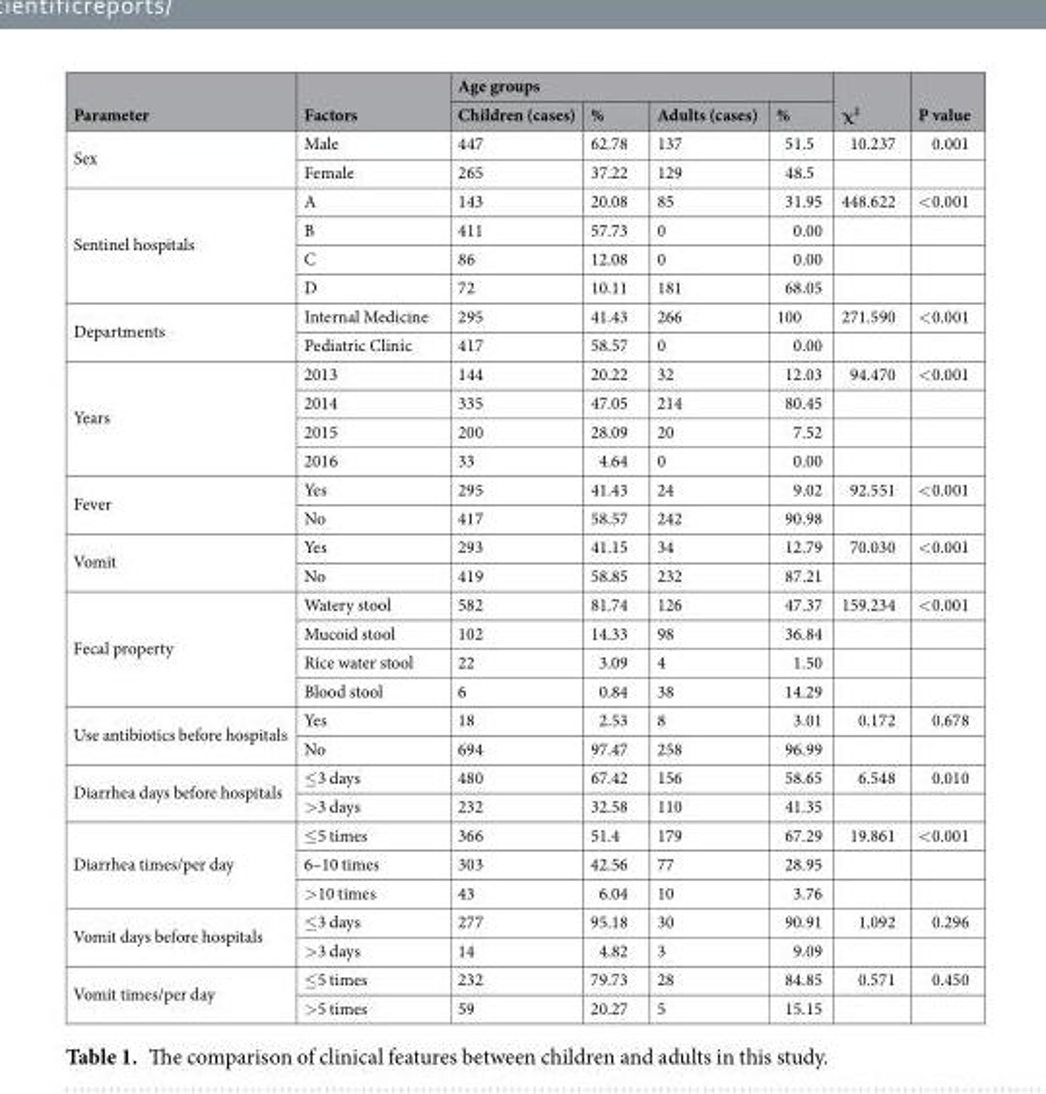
<table><thead><tr><td rowspan="2">Parameter</td><td rowspan="2">Factors</td><td colspan="4">Age groups</td><td rowspan="2">χ<sup>2</sup></td><td rowspan="2">P value</td></tr><tr><td>Children (cases)</td><td>%</td><td>Adults (cases)</td><td>%</td></tr></thead><tbody><tr><td rowspan="2">Sex</td><td>Male</td><td>447</td><td>62.78</td><td>137</td><td>51.5</td><td>10.237</td><td>0.001</td></tr><tr><td>Female</td><td>265</td><td>37.22</td><td>129</td><td>48.5</td><td></td><td></td></tr><tr><td rowspan="4">Sentinel hospitals</td><td>A</td><td>143</td><td>20.08</td><td>85</td><td>31.95</td><td>448.622</td><td>&lt;0.001</td></tr><tr><td>B</td><td>411</td><td>57.73</td><td>0</td><td>0.00</td><td></td><td></td></tr><tr><td>C</td><td>86</td><td>12.08</td><td>0</td><td>0.00</td><td></td><td></td></tr><tr><td>D</td><td>72</td><td>10.11</td><td>181</td><td>68.05</td><td></td><td></td></tr><tr><td rowspan="2">Departments</td><td>Internal Medicine</td><td>295</td><td>41.43</td><td>266</td><td>100</td><td>271.590</td><td>&lt;0.001</td></tr><tr><td>Pediatric Clinic</td><td>417</td><td>58.57</td><td>0</td><td>0.00</td><td></td><td></td></tr><tr><td rowspan="4">Years</td><td>2013</td><td>144</td><td>20.22</td><td>32</td><td>12.03</td><td>94.470</td><td>&lt;0.001</td></tr><tr><td>2014</td><td>335</td><td>47.05</td><td>214</td><td>80.45</td><td></td><td></td></tr><tr><td>2015</td><td>200</td><td>28.09</td><td>20</td><td>7.52</td><td></td><td></td></tr><tr><td>2016</td><td>33</td><td>4.64</td><td>0</td><td>0.00</td><td></td><td></td></tr><tr><td rowspan="2">Fever</td><td>Yes</td><td>295</td><td>41.43</td><td>24</td><td>9.02</td><td>92.551</td><td>&lt;0.001</td></tr><tr><td>No</td><td>417</td><td>58.57</td><td>242</td><td>90.98</td><td></td><td></td></tr><tr><td rowspan="2">Vomit</td><td>Yes</td><td>293</td><td>41.15</td><td>34</td><td>12.79</td><td>70.030</td><td>&lt;0.001</td></tr><tr><td>No</td><td>419</td><td>58.85</td><td>232</td><td>87.21</td><td></td><td></td></tr><tr><td rowspan="4">Fecal property</td><td>Watery stool</td><td>582</td><td>81.74</td><td>126</td><td>47.37</td><td>159.234</td><td>&lt;0.001</td></tr><tr><td>Mucoid stool</td><td>102</td><td>14.33</td><td>98</td><td>36.84</td><td></td><td></td></tr><tr><td>Rice water stool</td><td>22</td><td>3.09</td><td>4</td><td>1.50</td><td></td><td></td></tr><tr><td>Blood stool</td><td>6</td><td>0.84</td><td>38</td><td>14.29</td><td></td><td></td></tr><tr><td rowspan="2">Use antibiotics before hospitals</td><td>Yes</td><td>18</td><td>2.53</td><td>8</td><td>3.01</td><td>0.172</td><td>0.678</td></tr><tr><td>No</td><td>694</td><td>97.47</td><td>258</td><td>96.99</td><td></td><td></td></tr><tr><td rowspan="2">Diarrhea days before hospitals</td><td>≤3 days</td><td>480</td><td>67.42</td><td>156</td><td>58.65</td><td>6.548</td><td>0.010</td></tr><tr><td>&gt;3 days</td><td>232</td><td>32.58</td><td>110</td><td>41.35</td><td></td><td></td></tr><tr><td rowspan="3">Diarrhea times/per day</td><td>≤5 times</td><td>366</td><td>51.4</td><td>179</td><td>67.29</td><td>19.861</td><td>&lt;0.001</td></tr><tr><td>6–10 times</td><td>303</td><td>42.56</td><td>77</td><td>28.95</td><td></td><td></td></tr><tr><td>&gt;10 times</td><td>43</td><td>6.04</td><td>10</td><td>3.76</td><td></td><td></td></tr><tr><td rowspan="2">Vomit days before hospitals</td><td>≤3 days</td><td>277</td><td>95.18</td><td>30</td><td>90.91</td><td>1.092</td><td>0.296</td></tr><tr><td>&gt;3 days</td><td>14</td><td>4.82</td><td>3</td><td>9.09</td><td></td><td></td></tr><tr><td rowspan="2">Vomit times/per day</td><td>≤5 times</td><td>232</td><td>79.73</td><td>28</td><td>84.85</td><td>0.571</td><td>0.450</td></tr><tr><td>&gt;5 times</td><td>59</td><td>20.27</td><td>5</td><td>15.15</td><td></td><td></td></tr></tbody></table>